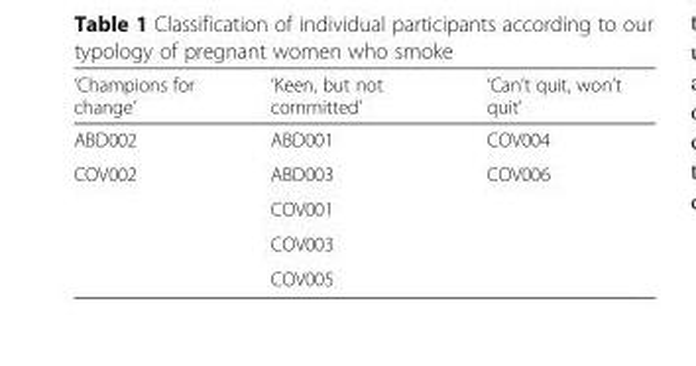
<table><thead><tr><td>‘Champions for change’</td><td>‘Keen, but not committed’</td><td>‘Can’t quit, won’t quit’</td></tr></thead><tbody><tr><td>ABD002</td><td>ABD001</td><td>COV004</td></tr><tr><td rowspan="4">COV002</td><td>ABD003</td><td>COV006</td></tr><tr><td>COV001</td><td></td></tr><tr><td>COV003</td><td></td></tr><tr><td>COV005</td><td></td></tr></tbody></table>